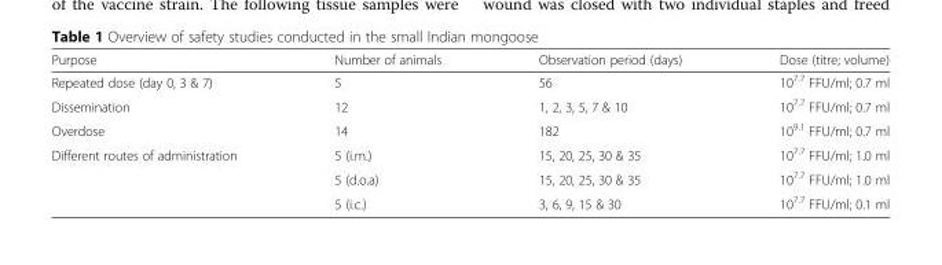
<table><thead><tr><td>Purpose</td><td>Number of animals</td><td>Observation period (days)</td><td>Dose (titre; volume)</td></tr></thead><tbody><tr><td>Repeated dose (day 0, 3 &amp; 7)</td><td>5</td><td>56</td><td>10<sup>7.7</sup> FFU/ml; 0.7 ml</td></tr><tr><td>Dissemination</td><td>12</td><td>1, 2, 3, 5, 7 &amp; 10</td><td>10<sup>7.7</sup> FFU/ml; 0.7 ml</td></tr><tr><td>Overdose</td><td>14</td><td>182</td><td>10<sup>9.1</sup> FFU/ml; 0.7 ml</td></tr><tr><td rowspan="3">Different routes of administration</td><td>5 (i.m.)</td><td>15, 20, 25, 30 &amp; 35</td><td>10<sup>7.7</sup> FFU/ml; 1.0 ml</td></tr><tr><td>5 (d.o.a)</td><td>15, 20, 25, 30 &amp; 35</td><td>10<sup>7.7</sup> FFU/ml; 1.0 ml</td></tr><tr><td>5 (i.c.)</td><td>3, 6, 9, 15 &amp; 30</td><td>10<sup>7.7</sup> FFU/ml; 0.1 ml</td></tr></tbody></table>